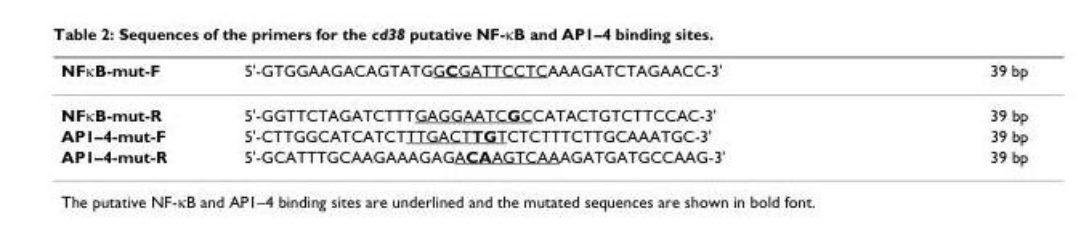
<table><thead><tr><td>NFκB-mut-F</td><td>5&#x27;-GTGGAAGACAGTATGGCGATTCCTCAAAGATCTAGAACC-3&#x27;</td><td>39 bp</td></tr></thead><tbody><tr><td>NFκB-mut-R</td><td>5&#x27;-GGTTCTAGATCTTTGAGGAATCGCCATACTGTCTTCCAC-3&#x27;</td><td>39 bp</td></tr><tr><td>AP1–4-mut-F</td><td>5&#x27;-CTTGGCATCATCTTTGACTTGTCTCTTTCTTGCAAATGC-3&#x27;</td><td>39 bp</td></tr><tr><td>AP1–4-mut-R</td><td>5&#x27;-GCATTTGCAAGAAAGAGACAAGTCAAAGATGATGCCAAG-3&#x27;</td><td>39 bp</td></tr></tbody></table>